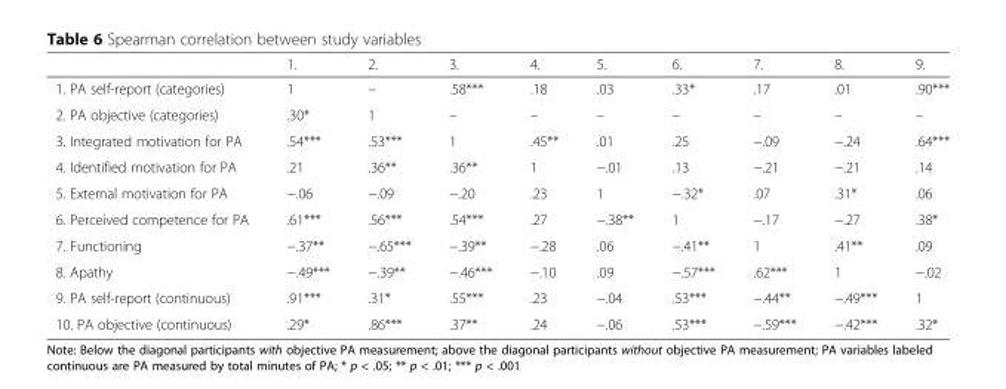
<table><thead><tr><td></td><td>1.</td><td>2.</td><td>3.</td><td>4.</td><td>5.</td><td>6.</td><td>7.</td><td>8.</td><td>9.</td></tr></thead><tbody><tr><td>1. PA self-report (categories)</td><td>1</td><td>–</td><td>.58***</td><td>.18</td><td>.03</td><td>.33*</td><td>.17</td><td>.01</td><td>.90***</td></tr><tr><td>2. PA objective (categories)</td><td>.30*</td><td>1</td><td>–</td><td>–</td><td>–</td><td>–</td><td>–</td><td>–</td><td>–</td></tr><tr><td>3. Integrated motivation for PA</td><td>.54***</td><td>.53***</td><td>1</td><td>.45**</td><td>.01</td><td>.25</td><td>−.09</td><td>−.24</td><td>.64***</td></tr><tr><td>4. Identified motivation for PA</td><td>.21</td><td>.36**</td><td>.36**</td><td>1</td><td>−.01</td><td>.13</td><td>−.21</td><td>−.21</td><td>.14</td></tr><tr><td>5. External motivation for PA</td><td>−.06</td><td>−.09</td><td>−.20</td><td>.23</td><td>1</td><td>−.32*</td><td>.07</td><td>.31*</td><td>.06</td></tr><tr><td>6. Perceived competence for PA</td><td>.61***</td><td>.56***</td><td>.54***</td><td>.27</td><td>−.38**</td><td>1</td><td>−.17</td><td>−.27</td><td>.38*</td></tr><tr><td>7. Functioning</td><td>−.37**</td><td>−.65***</td><td>−.39**</td><td>−.28</td><td>.06</td><td>−.41**</td><td>1</td><td>.41**</td><td>.09</td></tr><tr><td>8. Apathy</td><td>−.49***</td><td>−.39**</td><td>−.46***</td><td>−.10</td><td>.09</td><td>−.57***</td><td>.62***</td><td>1</td><td>−.02</td></tr><tr><td>9. PA self-report (continuous)</td><td>.91***</td><td>.31*</td><td>.55***</td><td>.23</td><td>−.04</td><td>.53***</td><td>−.44**</td><td>−.49***</td><td>1</td></tr><tr><td>10. PA objective (continuous)</td><td>.29*</td><td>.86***</td><td>.37**</td><td>.24</td><td>−.06</td><td>.53***</td><td>−.59***</td><td>−.42***</td><td>.32*</td></tr></tbody></table>